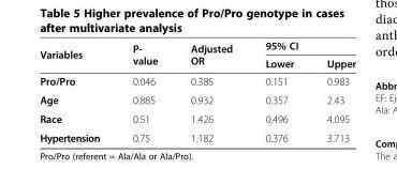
<table><thead><tr><td rowspan="2">Variables</td><td rowspan="2">P- value</td><td rowspan="2">Adjusted OR</td><td colspan="2">95% CI</td></tr><tr><td>Lower</td><td>Upper</td></tr></thead><tbody><tr><td>Pro/Pro</td><td>0.046</td><td>0.385</td><td>0.151</td><td>0.983</td></tr><tr><td>Age</td><td>0.885</td><td>0.932</td><td>0.357</td><td>2.43</td></tr><tr><td>Race</td><td>0.51</td><td>1.426</td><td>0.496</td><td>4.095</td></tr><tr><td>Hypertension</td><td>0.75</td><td>1.182</td><td>0.376</td><td>3.713</td></tr></tbody></table>